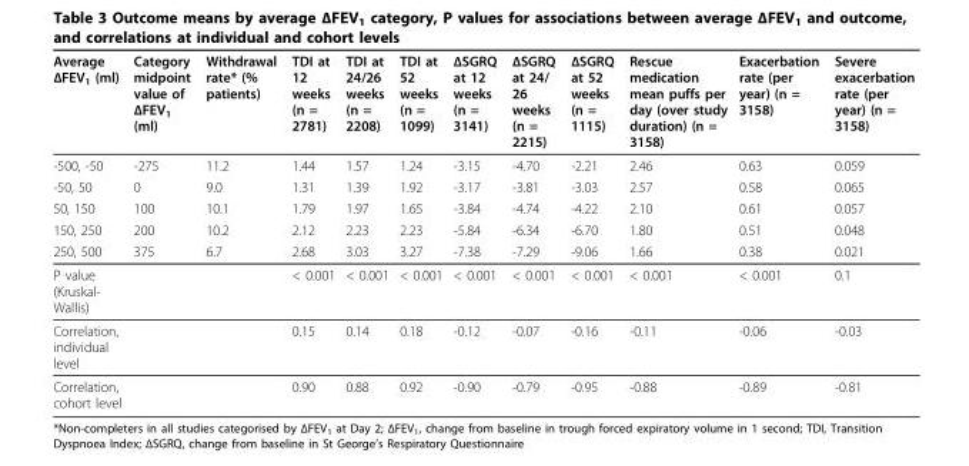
<table><thead><tr><td>Average ΔFEV<sub>1</sub> (ml)</td><td>Category midpoint value of ΔFEV<sub>1</sub> (ml)</td><td>Withdrawal rate* (% patients)</td><td>TDI at 12 weeks (n = 2781)</td><td>TDI at 24/26 weeks (n = 2208)</td><td>TDI at 52 weeks (n = 1099)</td><td>ΔSGRQ at 12 weeks (n = 3141)</td><td>ΔSGRQ at 24/ 26 weeks (n = 2215)</td><td>ΔSGRQ at 52 weeks (n = 1115)</td><td>Rescue medication mean puffs per day (over study duration) (n = 3158)</td><td>Exacerbation rate (per year) (n = 3158)</td><td>Severe exacerbation rate (per year) (n = 3158)</td></tr></thead><tbody><tr><td>-500, -50</td><td>-275</td><td>11.2</td><td>1.44</td><td>1.57</td><td>1.24</td><td>-3.15</td><td>-4.70</td><td>-2.21</td><td>2.46</td><td>0.63</td><td>0.059</td></tr><tr><td>-50, 50</td><td>0</td><td>9.0</td><td>1.31</td><td>1.39</td><td>1.92</td><td>-3.17</td><td>-3.81</td><td>-3.03</td><td>2.57</td><td>0.58</td><td>0.065</td></tr><tr><td>50, 150</td><td>100</td><td>10.1</td><td>1.79</td><td>1.97</td><td>1.65</td><td>-3.84</td><td>-4.74</td><td>-4.22</td><td>2.10</td><td>0.61</td><td>0.057</td></tr><tr><td>150, 250</td><td>200</td><td>10.2</td><td>2.12</td><td>2.23</td><td>2.23</td><td>-5.84</td><td>-6.34</td><td>-6.70</td><td>1.80</td><td>0.51</td><td>0.048</td></tr><tr><td>250, 500</td><td>375</td><td>6.7</td><td>2.68</td><td>3.03</td><td>3.27</td><td>-7.38</td><td>-7.29</td><td>-9.06</td><td>1.66</td><td>0.38</td><td>0.021</td></tr><tr><td>P value (Kruskal- Wallis)</td><td></td><td></td><td>&lt; 0.001</td><td>&lt; 0.001</td><td>&lt; 0.001</td><td>&lt; 0.001</td><td>&lt; 0.001</td><td>&lt; 0.001</td><td>&lt; 0.001</td><td>&lt; 0.001</td><td>0.1</td></tr><tr><td>Correlation, individual level</td><td></td><td></td><td>0.15</td><td>0.14</td><td>0.18</td><td>-0.12</td><td>-0.07</td><td>-0.16</td><td>-0.11</td><td>-0.06</td><td>-0.03</td></tr><tr><td>Correlation, cohort level</td><td></td><td></td><td>0.90</td><td>0.88</td><td>0.92</td><td>-0.90</td><td>-0.79</td><td>-0.95</td><td>-0.88</td><td>-0.89</td><td>-0.81</td></tr></tbody></table>